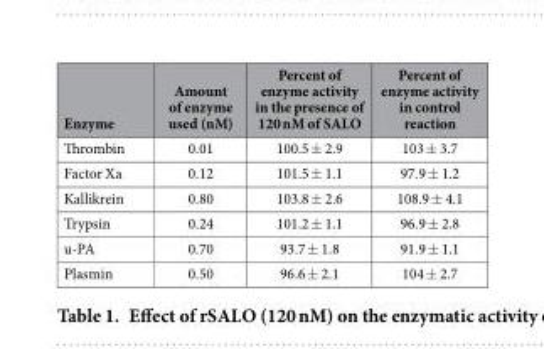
<table><thead><tr><td>Enzyme</td><td>Amount of enzyme used (nM)</td><td>Percent of enzyme activity in the presence of 120 nM of SALO</td><td>Percent of enzyme activity in control reaction</td></tr></thead><tbody><tr><td>Thrombin</td><td>0.01</td><td>100.5 ± 2.9</td><td>103 ± 3.7</td></tr><tr><td>Factor Xa</td><td>0.12</td><td>101.5 ± 1.1</td><td>97.9 ± 1.2</td></tr><tr><td>Kallikrein</td><td>0.80</td><td>103.8 ± 2.6</td><td>108.9 ± 4.1</td></tr><tr><td>Trypsin</td><td>0.24</td><td>101.2 ± 1.1</td><td>96.9 ± 2.8</td></tr><tr><td>u-PA</td><td>0.70</td><td>93.7 ± 1.8</td><td>91.9 ± 1.1</td></tr><tr><td>Plasmin</td><td>0.50</td><td>96.6 ± 2.1</td><td>104 ± 2.7</td></tr></tbody></table>